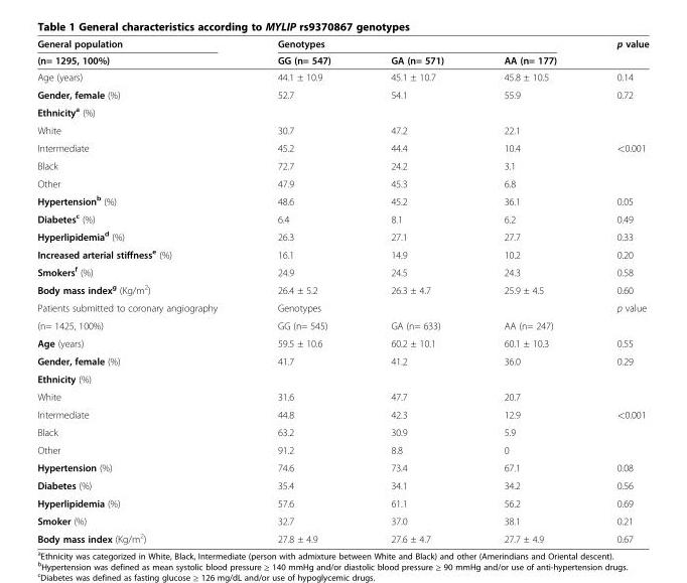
<table><thead><tr><td rowspan="2">General population (n= 1295, 100%)</td><td colspan="3">Genotypes</td><td rowspan="2">p value</td></tr><tr><td>GG (n= 547)</td><td>GA (n= 571)</td><td>AA (n= 177)</td></tr></thead><tbody><tr><td>Age (years)</td><td>44.1 ± 10.9</td><td>45.1 ± 10.7</td><td>45.8 ± 10.5</td><td>0.14</td></tr><tr><td>Gender, female (%)</td><td>52.7</td><td>54.1</td><td>55.9</td><td>0.72</td></tr><tr><td colspan="5">Ethnicity<sup>a</sup> (%)</td></tr><tr><td>White</td><td>30.7</td><td>47.2</td><td>22.1</td><td></td></tr><tr><td>Intermediate</td><td>45.2</td><td>44.4</td><td>10.4</td><td>&lt;0.001</td></tr><tr><td>Black</td><td>72.7</td><td>24.2</td><td>3.1</td><td></td></tr><tr><td>Other</td><td>47.9</td><td>45.3</td><td>6.8</td><td></td></tr><tr><td>Hypertension<sup>b</sup> (%)</td><td>48.6</td><td>45.2</td><td>36.1</td><td>0.05</td></tr><tr><td>Diabetes<sup>c</sup> (%)</td><td>6.4</td><td>8.1</td><td>6.2</td><td>0.49</td></tr><tr><td>Hyperlipidemia<sup>d</sup> (%)</td><td>26.3</td><td>27.1</td><td>27.7</td><td>0.33</td></tr><tr><td>Increased arterial stiffness<sup>e</sup> (%)</td><td>16.1</td><td>14.9</td><td>10.2</td><td>0.20</td></tr><tr><td>Smokers<sup>f</sup> (%)</td><td>24.9</td><td>24.5</td><td>24.3</td><td>0.58</td></tr><tr><td>Body mass index<sup>g</sup> (Kg/m<sup>2</sup>)</td><td>26.4 ± 5.2</td><td>26.3 ± 4.7</td><td>25.9 ± 4.5</td><td>0.60</td></tr><tr><td>Patients submitted to coronary angiography</td><td colspan="3">Genotypes</td><td>p value</td></tr><tr><td>(n= 1425, 100%)</td><td>GG (n= 545)</td><td>GA (n= 633)</td><td>AA (n= 247)</td><td></td></tr><tr><td>Age (years)</td><td>59.5 ± 10.6</td><td>60.2 ± 10.1</td><td>60.1 ± 10.3</td><td>0.55</td></tr><tr><td>Gender, female (%)</td><td>41.7</td><td>41.2</td><td>36.0</td><td>0.29</td></tr><tr><td colspan="5">Ethnicity (%)</td></tr><tr><td>White</td><td>31.6</td><td>47.7</td><td>20.7</td><td></td></tr><tr><td>Intermediate</td><td>44.8</td><td>42.3</td><td>12.9</td><td>&lt;0.001</td></tr><tr><td>Black</td><td>63.2</td><td>30.9</td><td>5.9</td><td></td></tr><tr><td>Other</td><td>91.2</td><td>8.8</td><td>0</td><td></td></tr><tr><td>Hypertension (%)</td><td>74.6</td><td>73.4</td><td>67.1</td><td>0.08</td></tr><tr><td>Diabetes (%)</td><td>35.4</td><td>34.1</td><td>34.2</td><td>0.56</td></tr><tr><td>Hyperlipidemia (%)</td><td>57.6</td><td>61.1</td><td>56.2</td><td>0.69</td></tr><tr><td>Smoker (%)</td><td>32.7</td><td>37.0</td><td>38.1</td><td>0.21</td></tr><tr><td>Body mass index (Kg/m<sup>2</sup>)</td><td>27.8 ± 4.9</td><td>27.6 ± 4.7</td><td>27.7 ± 4.9</td><td>0.67</td></tr></tbody></table>